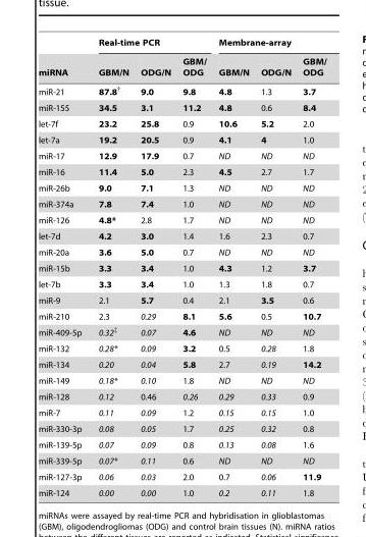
<table><thead><tr><td rowspan="2">miRNA</td><td colspan="3">Real-time PCR</td><td colspan="3">Membrane-array</td></tr><tr><td>GBM/N</td><td>ODG/N</td><td>GBM/ ODG</td><td>GBM/N</td><td>ODG/N</td><td>GBM/ ODG</td></tr></thead><tbody><tr><td>miR-21</td><td>87.8†</td><td>9.0</td><td>9.8</td><td>4.8</td><td>1.3</td><td>3.7</td></tr><tr><td>miR-155</td><td>34.5</td><td>3.1</td><td>11.2</td><td>4.8</td><td>0.6</td><td>8.4</td></tr><tr><td>let-7f</td><td>23.2</td><td>25.8</td><td>0.9</td><td>10.6</td><td>5.2</td><td>2.0</td></tr><tr><td>let-7a</td><td>19.2</td><td>20.5</td><td>0.9</td><td>4.1</td><td>4</td><td>1.0</td></tr><tr><td>miR-17</td><td>12.9</td><td>17.9</td><td>0.7</td><td>ND</td><td>ND</td><td>ND</td></tr><tr><td>miR-16</td><td>11.4</td><td>5.0</td><td>2.3</td><td>4.5</td><td>2.7</td><td>1.7</td></tr><tr><td>miR-26b</td><td>9.0</td><td>7.1</td><td>1.3</td><td>ND</td><td>ND</td><td>ND</td></tr><tr><td>miR-374a</td><td>7.8</td><td>7.4</td><td>1.0</td><td>ND</td><td>ND</td><td>ND</td></tr><tr><td>miR-126</td><td>4.8*</td><td>2.8</td><td>1.7</td><td>ND</td><td>ND</td><td>ND</td></tr><tr><td>let-7d</td><td>4.2</td><td>3.0</td><td>1.4</td><td>1.6</td><td>2.3</td><td>0.7</td></tr><tr><td>miR-20a</td><td>3.6</td><td>5.0</td><td>0.7</td><td>ND</td><td>ND</td><td>ND</td></tr><tr><td>miR-15b</td><td>3.3</td><td>3.4</td><td>1.0</td><td>4.3</td><td>1.2</td><td>3.7</td></tr><tr><td>let-7b</td><td>3.3</td><td>3.4</td><td>1.0</td><td>1.3</td><td>1.8</td><td>0.7</td></tr><tr><td>miR-9</td><td>2.1</td><td>5.7</td><td>0.4</td><td>2.1</td><td>3.5</td><td>0.6</td></tr><tr><td>miR-210</td><td>2.3</td><td>0.29</td><td>8.1</td><td>5.6</td><td>0.5</td><td>10.7</td></tr><tr><td>miR-409-5p</td><td>0.32‡</td><td>0.07</td><td>4.6</td><td>ND</td><td>ND</td><td>ND</td></tr><tr><td>miR-132</td><td>0.28*</td><td>0.09</td><td>3.2</td><td>0.5</td><td>0.28</td><td>1.8</td></tr><tr><td>miR-134</td><td>0.20</td><td>0.04</td><td>5.8</td><td>2.7</td><td>0.19</td><td>14.2</td></tr><tr><td>miR-149</td><td>0.18*</td><td>0.10</td><td>1.8</td><td>ND</td><td>ND</td><td>ND</td></tr><tr><td>miR-128</td><td>0.12</td><td>0.46</td><td>0.26</td><td>0.29</td><td>0.33</td><td>0.9</td></tr><tr><td>miR-7</td><td>0.11</td><td>0.09</td><td>1.2</td><td>0.15</td><td>0.15</td><td>1.0</td></tr><tr><td>miR-330-3p</td><td>0.08</td><td>0.05</td><td>1.7</td><td>0.25</td><td>0.32</td><td>0.8</td></tr><tr><td>miR-139-5p</td><td>0.07</td><td>0.09</td><td>0.8</td><td>0.13</td><td>0.08</td><td>1.6</td></tr><tr><td>miR-339-5p</td><td>0.07*</td><td>0.11</td><td>0.6</td><td>ND</td><td>ND</td><td>ND</td></tr><tr><td>miR-127-3p</td><td>0.06</td><td>0.03</td><td>2.0</td><td>0.7</td><td>0.06</td><td>11.9</td></tr><tr><td>miR-124</td><td>0.00</td><td>0.00</td><td>1.0</td><td>0.2</td><td>0.11</td><td>1.8</td></tr></tbody></table>